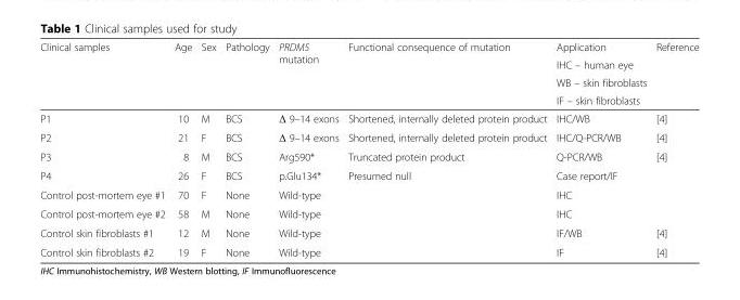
<table><thead><tr><td rowspan="4">Clinical samples</td><td rowspan="4">Age</td><td rowspan="4">Sex</td><td rowspan="4">Pathology</td><td rowspan="4">PRDM5 mutation</td><td rowspan="4">Functional consequence of mutation</td><td rowspan="4">Application IHC – human eye WB – skin fibroblasts IF – skin fibroblasts</td><td rowspan="4">Reference</td></tr><tr></tr><tr></tr><tr></tr></thead><tbody><tr><td>P1</td><td>10</td><td>M</td><td>BCS</td><td>Δ 9–14 exons</td><td>Shortened, internally deleted protein product</td><td>IHC/WB</td><td>[4]</td></tr><tr><td>P2</td><td>21</td><td>F</td><td>BCS</td><td>Δ 9–14 exons</td><td>Shortened, internally deleted protein product</td><td>IHC/Q-PCR/WB</td><td>[4]</td></tr><tr><td>P3</td><td>8</td><td>M</td><td>BCS</td><td>Arg590*</td><td>Truncated protein product</td><td>Q-PCR/WB</td><td>[4]</td></tr><tr><td>P4</td><td>26</td><td>F</td><td>BCS</td><td>p.Glu134*</td><td>Presumed null</td><td>Case report/IF</td><td></td></tr><tr><td>Control post-mortem eye #1</td><td>70</td><td>F</td><td>None</td><td>Wild-type</td><td></td><td>IHC</td><td></td></tr><tr><td>Control post-mortem eye #2</td><td>58</td><td>M</td><td>None</td><td>Wild-type</td><td></td><td>IHC</td><td></td></tr><tr><td>Control skin fibroblasts #1</td><td>12</td><td>M</td><td>None</td><td>Wild-type</td><td></td><td>IF/WB</td><td>[4]</td></tr><tr><td>Control skin fibroblasts #2</td><td>19</td><td>F</td><td>None</td><td>Wild-type</td><td></td><td>IF</td><td>[4]</td></tr></tbody></table>